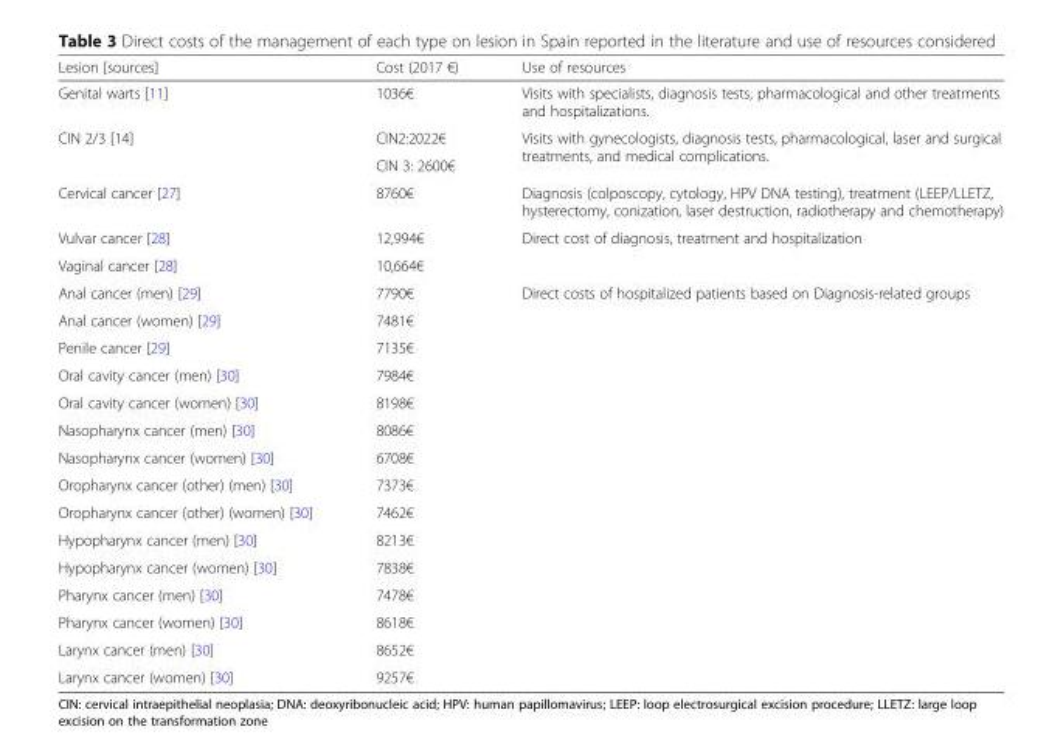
<table><thead><tr><td>Lesion [sources]</td><td>Cost (2017 €)</td><td>Use of resources</td></tr></thead><tbody><tr><td>Genital warts [11]</td><td>1036€</td><td>Visits with specialists, diagnosis tests, pharmacological and other treatments and hospitalizations.</td></tr><tr><td rowspan="2">CIN 2/3 [14]</td><td>CIN2:2022€</td><td rowspan="2">Visits with gynecologists, diagnosis tests, pharmacological, laser and surgical treatments, and medical complications.</td></tr><tr><td>CIN 3: 2600€</td></tr><tr><td>Cervical cancer [27]</td><td>8760€</td><td>Diagnosis (colposcopy, cytology, HPV DNA testing), treatment (LEEP/LLETZ, hysterectomy, conization, laser destruction, radiotherapy and chemotherapy)</td></tr><tr><td>Vulvar cancer [28]</td><td>12,994€</td><td rowspan="2">Direct cost of diagnosis, treatment and hospitalization</td></tr><tr><td>Vaginal cancer [28]</td><td>10,664€</td></tr><tr><td>Anal cancer (men) [29]</td><td>7790€</td><td rowspan="15">Direct costs of hospitalized patients based on Diagnosis-related groups</td></tr><tr><td>Anal cancer (women) [29]</td><td>7481€</td></tr><tr><td>Penile cancer [29]</td><td>7135€</td></tr><tr><td>Oral cavity cancer (men) [30]</td><td>7984€</td></tr><tr><td>Oral cavity cancer (women) [30]</td><td>8198€</td></tr><tr><td>Nasopharynx cancer (men) [30]</td><td>8086€</td></tr><tr><td>Nasopharynx cancer (women) [30]</td><td>6708€</td></tr><tr><td>Oropharynx cancer (other) (men) [30]</td><td>7373€</td></tr><tr><td>Oropharynx cancer (other) (women) [30]</td><td>7462€</td></tr><tr><td>Hypopharynx cancer (men) [30]</td><td>8213€</td></tr><tr><td>Hypopharynx cancer (women) [30]</td><td>7838€</td></tr><tr><td>Pharynx cancer (men) [30]</td><td>7478€</td></tr><tr><td>Pharynx cancer (women) [30]</td><td>8618€</td></tr><tr><td>Larynx cancer (men) [30]</td><td>8652€</td></tr><tr><td>Larynx cancer (women) [30]</td><td>9257€</td></tr></tbody></table>